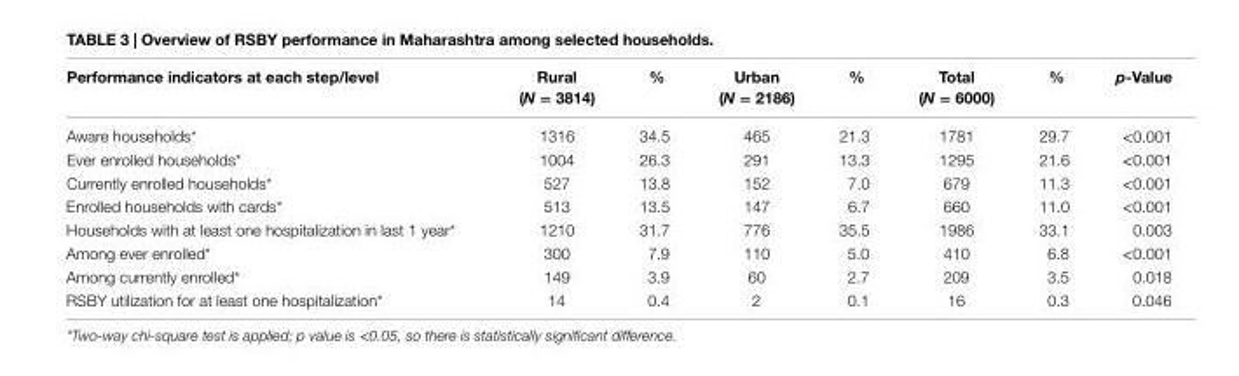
<table><thead><tr><td>Performance indicators at each step/level</td><td>rural (N = 3814)</td><td>%</td><td>Urban (N = 2186)</td><td>%</td><td>Total (N = 6000)</td><td>%</td><td>p-Value</td></tr></thead><tbody><tr><td>Aware households*</td><td>1316</td><td>34.5</td><td>465</td><td>21.3</td><td>1781</td><td>29.7</td><td>&lt;0.001</td></tr><tr><td>Ever enrolled households*</td><td>1004</td><td>26.3</td><td>291</td><td>13.3</td><td>1295</td><td>21.6</td><td>&lt;0.001</td></tr><tr><td>Currently enrolled households*</td><td>527</td><td>13.8</td><td>152</td><td>7.0</td><td>679</td><td>11.3</td><td>&lt;0.001</td></tr><tr><td>Enrolled households with cards*</td><td>513</td><td>13.5</td><td>147</td><td>6.7</td><td>660</td><td>11.0</td><td>&lt;0.001</td></tr><tr><td>Households with at least one hospitalization in last 1 year*</td><td>1210</td><td>31.7</td><td>776</td><td>35.5</td><td>1986</td><td>33.1</td><td>0.003</td></tr><tr><td>Among ever enrolled*</td><td>300</td><td>7.9</td><td>110</td><td>5.0</td><td>410</td><td>6.8</td><td>&lt;0.001</td></tr><tr><td>Among currently enrolled*</td><td>149</td><td>3.9</td><td>60</td><td>2.7</td><td>209</td><td>3.5</td><td>0.018</td></tr><tr><td>RSBY utilization for at least one hospitalization*</td><td>14</td><td>0.4</td><td>2</td><td>0.1</td><td>16</td><td>0.3</td><td>0.046</td></tr></tbody></table>